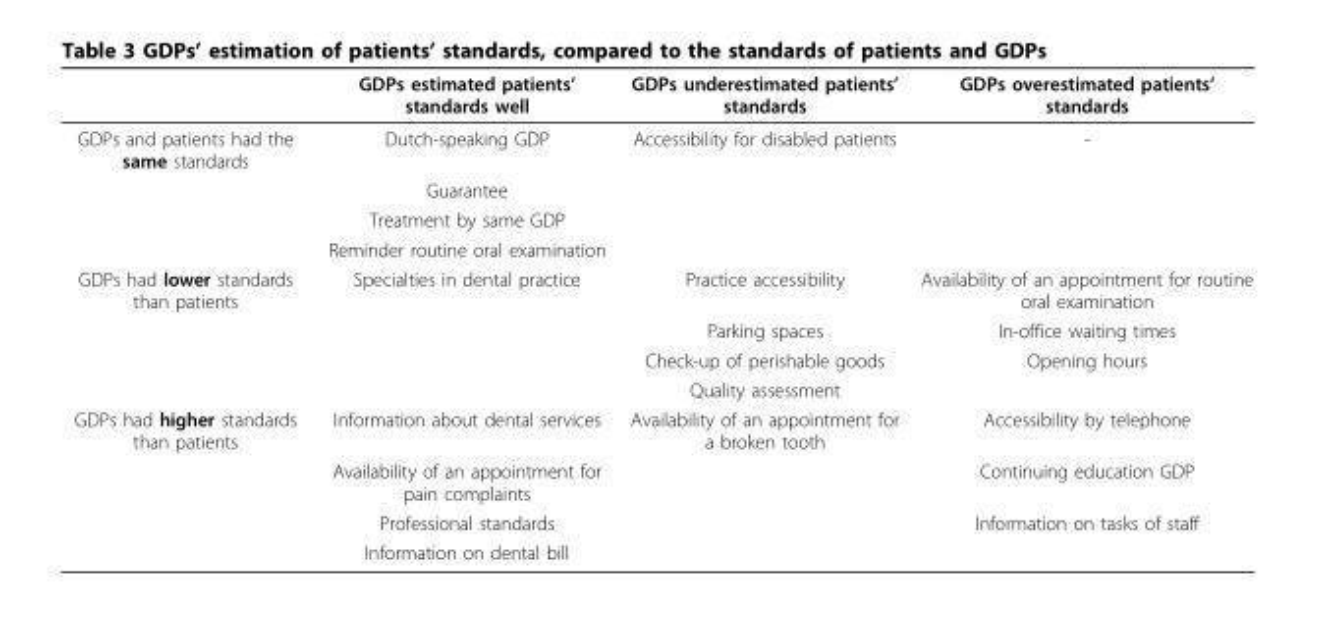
<table><thead><tr><td></td><td>GDPs estimated patients’ standards well</td><td>GDPs underestimated patients’ standards</td><td>GDPs overestimated patients’ standards</td></tr></thead><tbody><tr><td rowspan="4">GDPs and patients had the same standards</td><td>Dutch-speaking GDP</td><td>Accessibility for disabled patients</td><td>-</td></tr><tr><td>Guarantee</td><td></td><td></td></tr><tr><td>Treatment by same GDP</td><td></td><td></td></tr><tr><td>Reminder routine oral examination</td><td></td><td></td></tr><tr><td rowspan="4">GDPs had lower standards than patients</td><td>Specialties in dental practice</td><td>Practice accessibility</td><td>Availability of an appointment for routine oral examination</td></tr><tr><td></td><td>Parking spaces</td><td>In-office waiting times</td></tr><tr><td></td><td>Check-up of perishable goods</td><td>Opening hours</td></tr><tr><td></td><td>Quality assessment</td><td></td></tr><tr><td rowspan="4">GDPs had higher standards than patients</td><td>Information about dental services</td><td>Availability of an appointment for a broken tooth</td><td>Accessibility by telephone</td></tr><tr><td>Availability of an appointment for pain complaints</td><td></td><td>Continuing education GDP</td></tr><tr><td>Professional standards</td><td></td><td>Information on tasks of staff</td></tr><tr><td>Information on dental bill</td><td></td><td></td></tr></tbody></table>